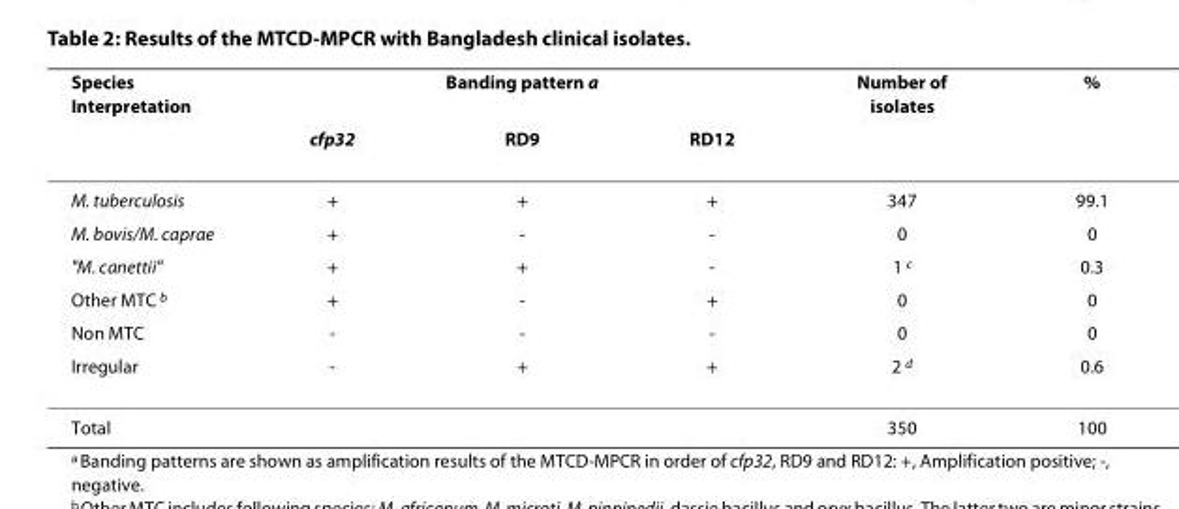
<table><thead><tr><td rowspan="2">Species Interpretation</td><td colspan="3">Banding pattern <sup>a</sup></td><td rowspan="2">Number of isolates</td><td rowspan="2">%</td></tr><tr><td>cfp32</td><td>RD9</td><td>RD12</td></tr></thead><tbody><tr><td>M. tuberculosis</td><td>+</td><td>+</td><td>+</td><td>347</td><td>99.1</td></tr><tr><td>M. bovis/M. caprae</td><td>+</td><td>-</td><td>-</td><td>0</td><td>0</td></tr><tr><td>&quot;M. canettii&quot;</td><td>+</td><td>+</td><td>-</td><td>1 <sup>c</sup></td><td>0.3</td></tr><tr><td>Other MTC <sup>b</sup></td><td>+</td><td>-</td><td>+</td><td>0</td><td>0</td></tr><tr><td>Non MTC</td><td>-</td><td>-</td><td>-</td><td>0</td><td>0</td></tr><tr><td>Irregular</td><td>-</td><td>+</td><td>+</td><td>2 <sup>d</sup></td><td>0.6</td></tr><tr><td>Total</td><td></td><td></td><td></td><td>350</td><td>100</td></tr></tbody></table>